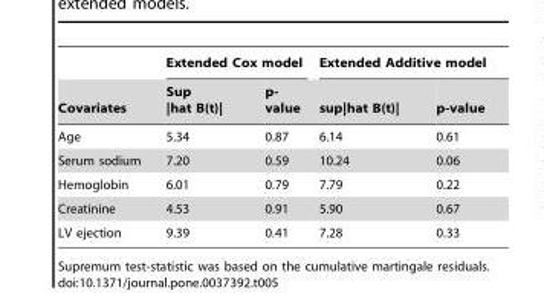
<table><thead><tr><td rowspan="2">Covariates</td><td colspan="2">Extended Cox model</td><td colspan="2">Extended Additive model</td></tr><tr><td>Sup |hat B(t)|</td><td>p- value</td><td>sup|hat B(t)|</td><td>p-value</td></tr></thead><tbody><tr><td>Age</td><td>5.34</td><td>0.87</td><td>6.14</td><td>0.61</td></tr><tr><td>Serum sodium</td><td>7.20</td><td>0.59</td><td>10.24</td><td>0.06</td></tr><tr><td>Hemoglobin</td><td>6.01</td><td>0.79</td><td>7.79</td><td>0.22</td></tr><tr><td>Creatinine</td><td>4.53</td><td>0.91</td><td>5.90</td><td>0.67</td></tr><tr><td>LV ejection</td><td>9.39</td><td>0.41</td><td>7.28</td><td>0.33</td></tr></tbody></table>